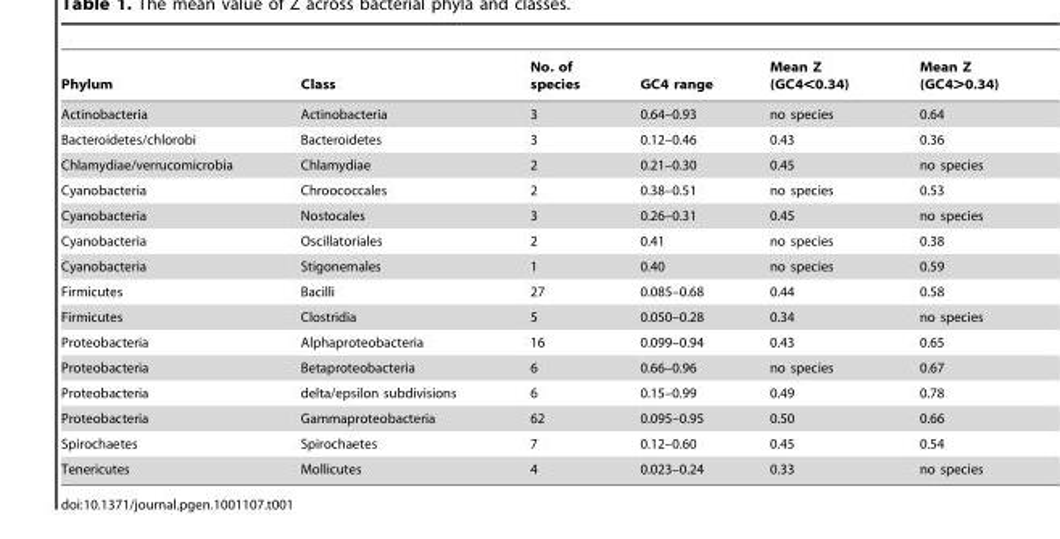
<table><thead><tr><td>Phylum</td><td>Class</td><td>No. of species</td><td>GC4 range</td><td>Mean Z (GC4&lt;0.34)</td><td>Mean Z (GC4&gt;0.34)</td></tr></thead><tbody><tr><td>Actinobacteria</td><td>Actinobacteria</td><td>3</td><td>0.64–0.93</td><td>no species</td><td>0.64</td></tr><tr><td>Bacteroidetes/chlorobi</td><td>Bacteroidetes</td><td>3</td><td>0.12–0.46</td><td>0.43</td><td>0.36</td></tr><tr><td>Chlamydiae/verrucomicrobia</td><td>Chlamydiae</td><td>2</td><td>0.21–0.30</td><td>0.45</td><td>no species</td></tr><tr><td>Cyanobacteria</td><td>Chroococcales</td><td>2</td><td>0.38–0.51</td><td>no species</td><td>0.53</td></tr><tr><td>Cyanobacteria</td><td>Nostocales</td><td>3</td><td>0.26–0.31</td><td>0.45</td><td>no species</td></tr><tr><td>Cyanobacteria</td><td>Oscillatoriales</td><td>2</td><td>0.41</td><td>no species</td><td>0.38</td></tr><tr><td>Cyanobacteria</td><td>Stigonemales</td><td>1</td><td>0.40</td><td>no species</td><td>0.59</td></tr><tr><td>Firmicutes</td><td>Bacilli</td><td>27</td><td>0.085–0.68</td><td>0.44</td><td>0.58</td></tr><tr><td>Firmicutes</td><td>Clostridia</td><td>5</td><td>0.050–0.28</td><td>0.34</td><td>no species</td></tr><tr><td>Proteobacteria</td><td>Alphaproteobacteria</td><td>16</td><td>0.099–0.94</td><td>0.43</td><td>0.65</td></tr><tr><td>Proteobacteria</td><td>Betaproteobacteria</td><td>6</td><td>0.66–0.96</td><td>no species</td><td>0.67</td></tr><tr><td>Proteobacteria</td><td>delta/epsilon subdivisions</td><td>6</td><td>0.15–0.99</td><td>0.49</td><td>0.78</td></tr><tr><td>Proteobacteria</td><td>Gammaproteobacteria</td><td>62</td><td>0.095–0.95</td><td>0.50</td><td>0.66</td></tr><tr><td>Spirochaetes</td><td>Spirochaetes</td><td>7</td><td>0.12–0.60</td><td>0.45</td><td>0.54</td></tr><tr><td>Tenericutes</td><td>Mollicutes</td><td>4</td><td>0.023–0.24</td><td>0.33</td><td>no species</td></tr></tbody></table>